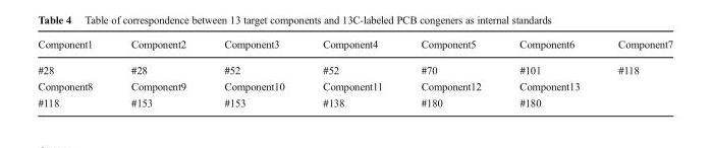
<table><thead><tr><td>Component1</td><td>Component2</td><td>Component3</td><td>Component4</td><td>Component5</td><td>Component6</td><td>Component7</td></tr></thead><tbody><tr><td>#28</td><td>#28</td><td>#52</td><td>#52</td><td>#70</td><td>#101</td><td>#118</td></tr><tr><td>Component8</td><td>Component9</td><td>Component10</td><td>Component11</td><td>Component12</td><td>Component13</td><td></td></tr><tr><td>#118</td><td>#153</td><td>#153</td><td>#138</td><td>#180</td><td>#180</td><td></td></tr></tbody></table>